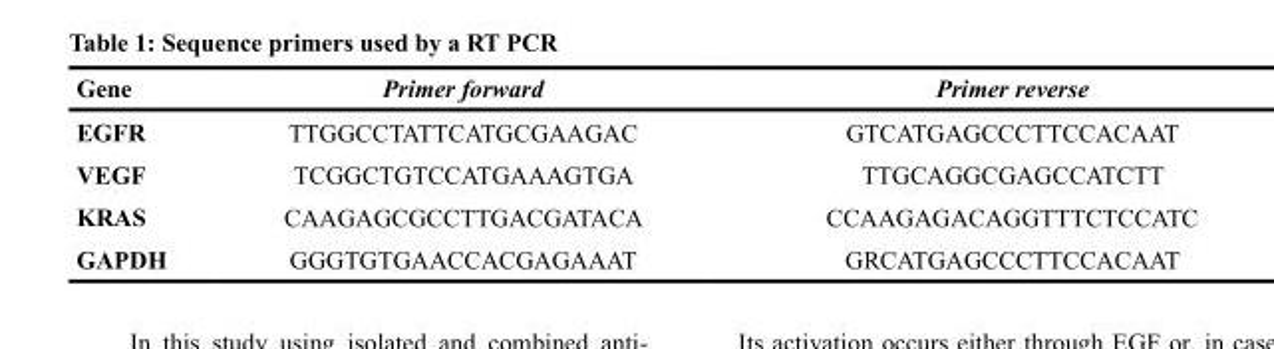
<table><thead><tr><td>Gene</td><td>Primer forward</td><td>Primer reverse</td></tr></thead><tbody><tr><td>EGFR</td><td>TTGGCCTATTCATGCGAAGAC</td><td>GTCATGAGCCCTTCCACAAT</td></tr><tr><td>VEGF</td><td>TCGGCTGTCCATGAAAGTGA</td><td>TTGCAGGCGAGCCATCTT</td></tr><tr><td>KRAS</td><td>CAAGAGCGCCTTGACGATACA</td><td>CCAAGAGACAGGTTTCTCCATC</td></tr><tr><td>GAPDH</td><td>GGGTGTGAACCACGAGAAAT</td><td>GRCATGAGCCCTTCCACAAT</td></tr></tbody></table>